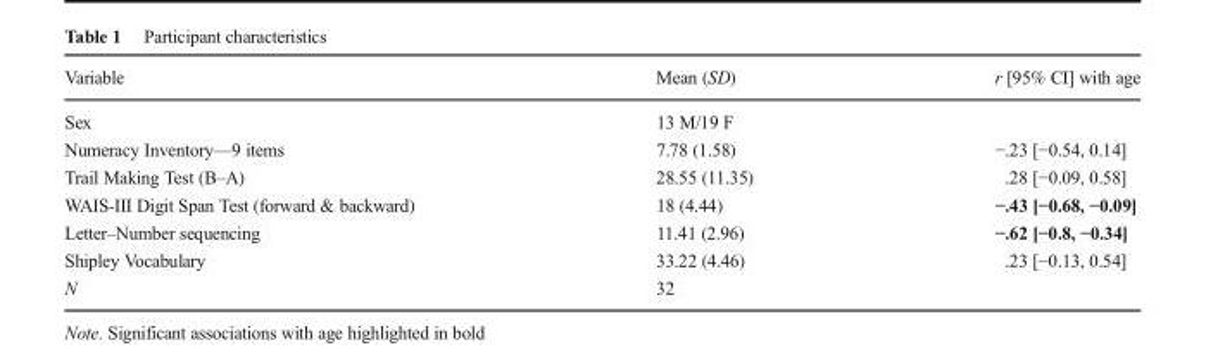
<table><thead><tr><td>Variable</td><td>Mean (SD)</td><td>r [95% CI] with age</td></tr></thead><tbody><tr><td>Sex</td><td>13 M/19 F</td><td></td></tr><tr><td>Numeracy Inventory—9 items</td><td>7.78 (1.58)</td><td>−.23 [−0.54, 0.14]</td></tr><tr><td>Trail Making Test (B–A)</td><td>28.55 (11.35)</td><td>.28 [−0.09, 0.58]</td></tr><tr><td>WAIS-III Digit Span Test (forward &amp; backward)</td><td>18 (4.44)</td><td>−.43 [−0.68, −0.09]</td></tr><tr><td>Letter–Number sequencing</td><td>11.41 (2.96)</td><td>−.62 [−0.8, −0.34]</td></tr><tr><td>Shipley Vocabulary</td><td>33.22 (4.46)</td><td>.23 [−0.13, 0.54]</td></tr><tr><td>N</td><td>32</td><td></td></tr></tbody></table>